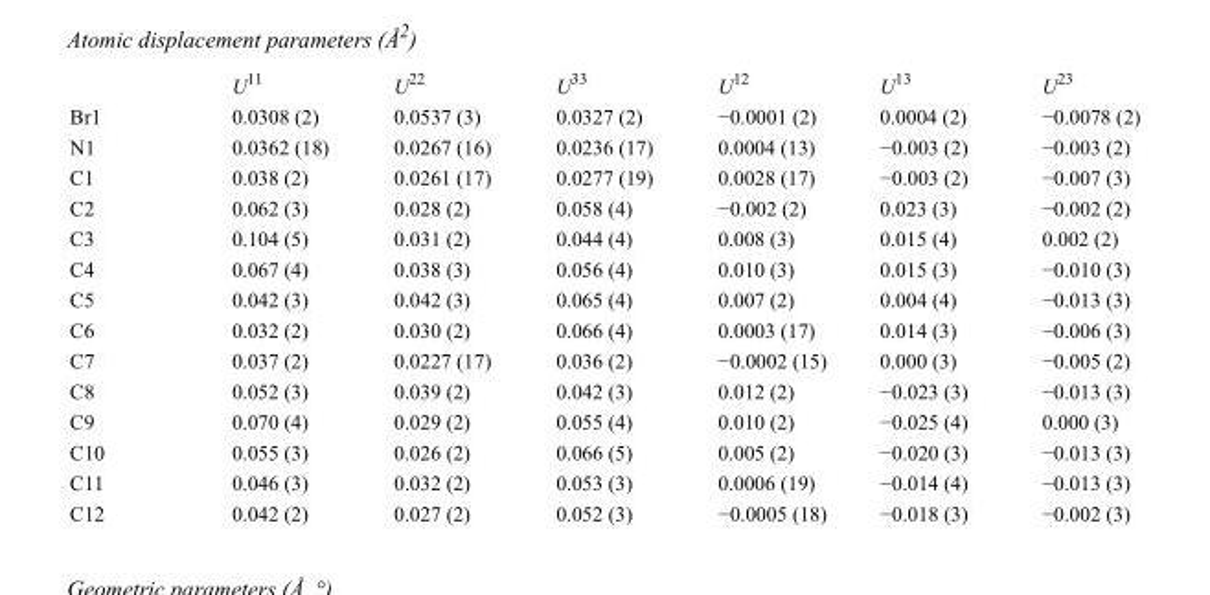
<table><thead><tr><td></td><td>U<sup>11</sup></td><td>U<sup>22</sup></td><td>U<sup>33</sup></td><td>U<sup>12</sup></td><td>U<sup>13</sup></td><td>U<sup>23</sup></td></tr></thead><tbody><tr><td>Br1</td><td>0.0308 (2)</td><td>0.0537 (3)</td><td>0.0327 (2)</td><td>−0.0001 (2)</td><td>0.0004 (2)</td><td>−0.0078 (2)</td></tr><tr><td>N1</td><td>0.0362 (18)</td><td>0.0267 (16)</td><td>0.0236 (17)</td><td>0.0004 (13)</td><td>−0.003 (2)</td><td>−0.003 (2)</td></tr><tr><td>C1</td><td>0.038 (2)</td><td>0.0261 (17)</td><td>0.0277 (19)</td><td>0.0028 (17)</td><td>−0.003 (2)</td><td>−0.007 (3)</td></tr><tr><td>C2</td><td>0.062 (3)</td><td>0.028 (2)</td><td>0.058 (4)</td><td>−0.002 (2)</td><td>0.023 (3)</td><td>−0.002 (2)</td></tr><tr><td>C3</td><td>0.104 (5)</td><td>0.031 (2)</td><td>0.044 (4)</td><td>0.008 (3)</td><td>0.015 (4)</td><td>0.002 (2)</td></tr><tr><td>C4</td><td>0.067 (4)</td><td>0.038 (3)</td><td>0.056 (4)</td><td>0.010 (3)</td><td>0.015 (3)</td><td>−0.010 (3)</td></tr><tr><td>C5</td><td>0.042 (3)</td><td>0.042 (3)</td><td>0.065 (4)</td><td>0.007 (2)</td><td>0.004 (4)</td><td>−0.013 (3)</td></tr><tr><td>C6</td><td>0.032 (2)</td><td>0.030 (2)</td><td>0.066 (4)</td><td>0.0003 (17)</td><td>0.014 (3)</td><td>−0.006 (3)</td></tr><tr><td>C7</td><td>0.037 (2)</td><td>0.0227 (17)</td><td>0.036 (2)</td><td>−0.0002 (15)</td><td>0.000 (3)</td><td>−0.005 (2)</td></tr><tr><td>C8</td><td>0.052 (3)</td><td>0.039 (2)</td><td>0.042 (3)</td><td>0.012 (2)</td><td>−0.023 (3)</td><td>−0.013 (3)</td></tr><tr><td>C9</td><td>0.070 (4)</td><td>0.029 (2)</td><td>0.055 (4)</td><td>0.010 (2)</td><td>−0.025 (4)</td><td>0.000 (3)</td></tr><tr><td>C10</td><td>0.055 (3)</td><td>0.026 (2)</td><td>0.066 (5)</td><td>0.005 (2)</td><td>−0.020 (3)</td><td>−0.013 (3)</td></tr><tr><td>C11</td><td>0.046 (3)</td><td>0.032 (2)</td><td>0.053 (3)</td><td>0.0006 (19)</td><td>−0.014 (4)</td><td>−0.013 (3)</td></tr><tr><td>C12</td><td>0.042 (2)</td><td>0.027 (2)</td><td>0.052 (3)</td><td>−0.0005 (18)</td><td>−0.018 (3)</td><td>−0.002 (3)</td></tr></tbody></table>